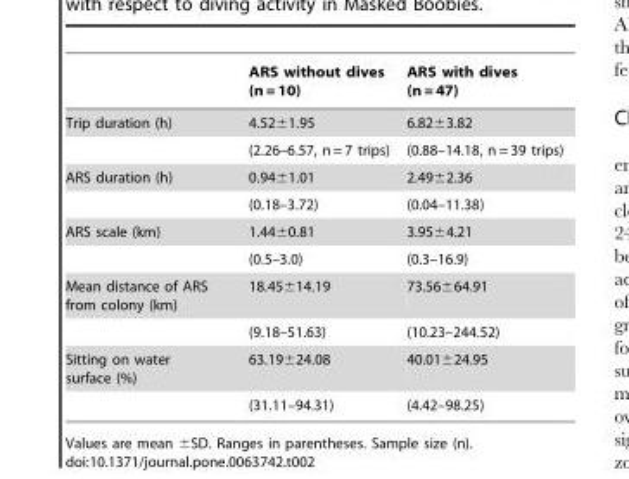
<table><thead><tr><td></td><td>ARS without dives (n = 10)</td><td>ARS with dives (n = 47)</td></tr></thead><tbody><tr><td rowspan="2">Trip duration (h)</td><td>4.52±1.95</td><td>6.82±3.82</td></tr><tr><td>(2.26–6.57, n = 7 trips)</td><td>(0.88–14.18, n = 39 trips)</td></tr><tr><td rowspan="2">ARS duration (h)</td><td>0.94±1.01</td><td>2.49±2.36</td></tr><tr><td>(0.18–3.72)</td><td>(0.04–11.38)</td></tr><tr><td rowspan="2">ARS scale (km)</td><td>1.44±0.81</td><td>3.95±4.21</td></tr><tr><td>(0.5–3.0)</td><td>(0.3–16.9)</td></tr><tr><td rowspan="2">Mean distance of ARS from colony (km)</td><td>18.45±14.19</td><td>73.56±64.91</td></tr><tr><td>(9.18–51.63)</td><td>(10.23–244.52)</td></tr><tr><td rowspan="2">Sitting on water surface (%)</td><td>63.19±24.08</td><td>40.01±24.95</td></tr><tr><td>(31.11–94.31)</td><td>(4.42–98.25)</td></tr></tbody></table>